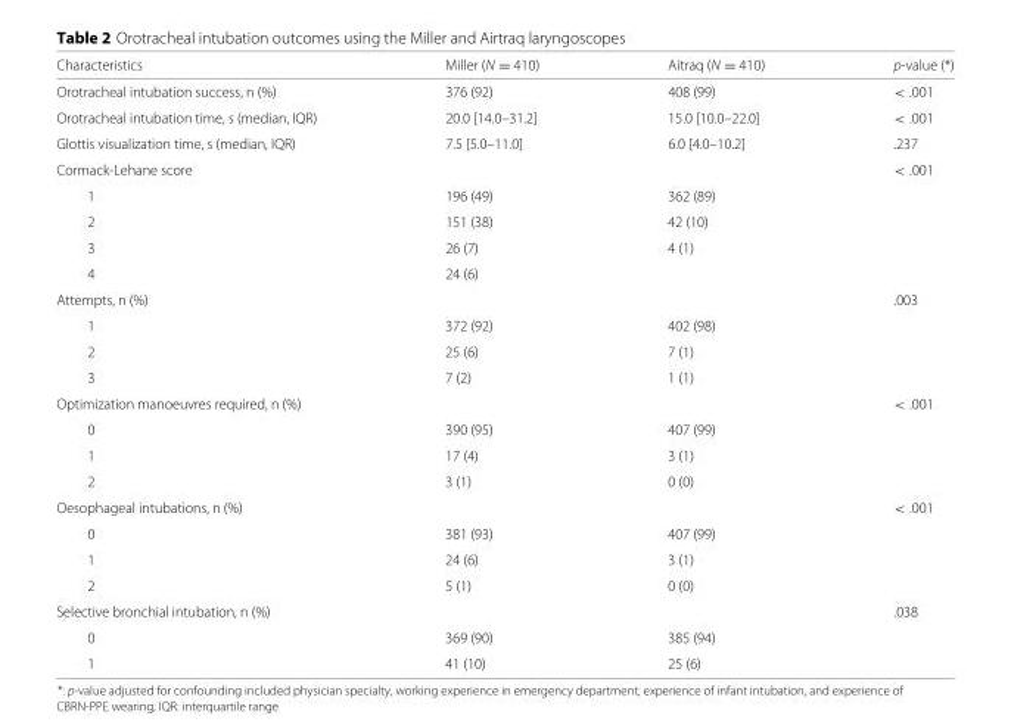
<table><thead><tr><td>Characteristics</td><td>Miller (N = 410)</td><td>Aitraq (N = 410)</td><td>p-value (*)</td></tr></thead><tbody><tr><td>Orotracheal intubation success, n (%)</td><td>376 (92)</td><td>408 (99)</td><td>&lt; .001</td></tr><tr><td>Orotracheal intubation time, s (median, IQR)</td><td>20.0 [14.0–31.2]</td><td>15.0 [10.0–22.0]</td><td>&lt; .001</td></tr><tr><td>Glottis visualization time, s (median, IQR)</td><td>7.5 [5.0–11.0]</td><td>6.0 [4.0–10.2]</td><td>.237</td></tr><tr><td>Cormack-Lehane score</td><td></td><td></td><td>&lt; .001</td></tr><tr><td>1</td><td>196 (49)</td><td>362 (89)</td><td></td></tr><tr><td>2</td><td>151 (38)</td><td>42 (10)</td><td></td></tr><tr><td>3</td><td>26 (7)</td><td>4 (1)</td><td></td></tr><tr><td>4</td><td>24 (6)</td><td></td><td></td></tr><tr><td>Attempts, n (%)</td><td></td><td></td><td>.003</td></tr><tr><td>1</td><td>372 (92)</td><td>402 (98)</td><td></td></tr><tr><td>2</td><td>25 (6)</td><td>7 (1)</td><td></td></tr><tr><td>3</td><td>7 (2)</td><td>1 (1)</td><td></td></tr><tr><td>Optimization manoeuvres required, n (%)</td><td></td><td></td><td>&lt; .001</td></tr><tr><td>0</td><td>390 (95)</td><td>407 (99)</td><td></td></tr><tr><td>1</td><td>17 (4)</td><td>3 (1)</td><td></td></tr><tr><td>2</td><td>3 (1)</td><td>0 (0)</td><td></td></tr><tr><td>Oesophageal intubations, n (%)</td><td></td><td></td><td>&lt; .001</td></tr><tr><td>0</td><td>381 (93)</td><td>407 (99)</td><td></td></tr><tr><td>1</td><td>24 (6)</td><td>3 (1)</td><td></td></tr><tr><td>2</td><td>5 (1)</td><td>0 (0)</td><td></td></tr><tr><td>Selective bronchial intubation, n (%)</td><td></td><td></td><td>.038</td></tr><tr><td>0</td><td>369 (90)</td><td>385 (94)</td><td></td></tr><tr><td>1</td><td>41 (10)</td><td>25 (6)</td><td></td></tr></tbody></table>